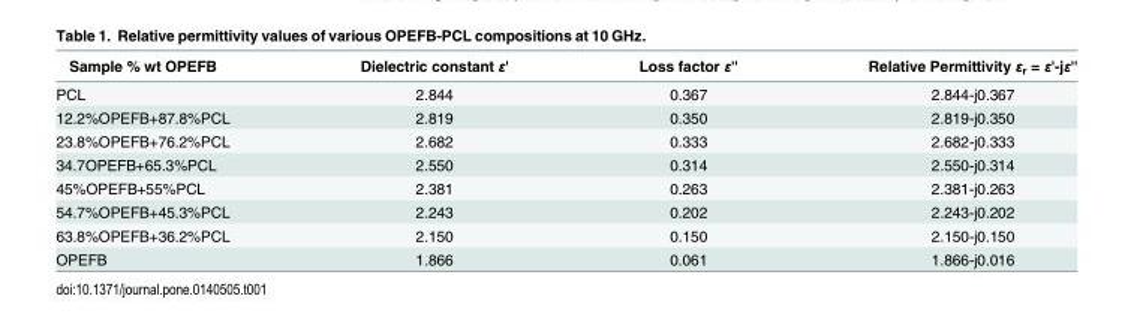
<table><thead><tr><td>Sample % wt OPEFB</td><td>Dielectric constant ε&#x27;</td><td>Loss factor ε&#x27;&#x27;</td><td>Relative Permittivity ε<sub>r</sub> = ε&#x27;-jε&#x27;&#x27;</td></tr></thead><tbody><tr><td>PCL</td><td>2.844</td><td>0.367</td><td>2.844-j0.367</td></tr><tr><td>12.2%OPEFB+87.8%PCL</td><td>2.819</td><td>0.350</td><td>2.819-j0.350</td></tr><tr><td>23.8%OPEFB+76.2%PCL</td><td>2.682</td><td>0.333</td><td>2.682-j0.333</td></tr><tr><td>34.7OPEFB+65.3%PCL</td><td>2.550</td><td>0.314</td><td>2.550-j0.314</td></tr><tr><td>45%OPEFB+55%PCL</td><td>2.381</td><td>0.263</td><td>2.381-j0.263</td></tr><tr><td>54.7%OPEFB+45.3%PCL</td><td>2.243</td><td>0.202</td><td>2.243-j0.202</td></tr><tr><td>63.8%OPEFB+36.2%PCL</td><td>2.150</td><td>0.150</td><td>2.150-j0.150</td></tr><tr><td>OPEFB</td><td>1.866</td><td>0.061</td><td>1.866-j0.016</td></tr></tbody></table>